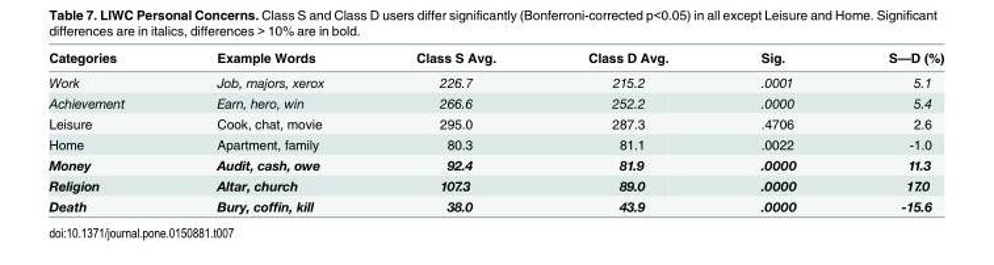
<table><thead><tr><td>Categories</td><td>Example Words</td><td>Class S Avg.</td><td>Class D Avg.</td><td>Sig.</td><td>S—D (%)</td></tr></thead><tbody><tr><td>Work</td><td>Job, majors, xerox</td><td>226.7</td><td>215.2</td><td>.0001</td><td>5.1</td></tr><tr><td>Achievement</td><td>Earn, hero, win</td><td>266.6</td><td>252.2</td><td>.0000</td><td>5.4</td></tr><tr><td>Leisure</td><td>Cook, chat, movie</td><td>295.0</td><td>287.3</td><td>.4706</td><td>2.6</td></tr><tr><td>Home</td><td>Apartment, family</td><td>80.3</td><td>81.1</td><td>.0022</td><td>-1.0</td></tr><tr><td>Money</td><td>Audit, cash, owe</td><td>92.4</td><td>81.9</td><td>.0000</td><td>11.3</td></tr><tr><td>Religion</td><td>Altar, church</td><td>107.3</td><td>89.0</td><td>.0000</td><td>17.0</td></tr><tr><td>Death</td><td>Bury, coffin, kill</td><td>38.0</td><td>43.9</td><td>.0000</td><td>-15.6</td></tr></tbody></table>